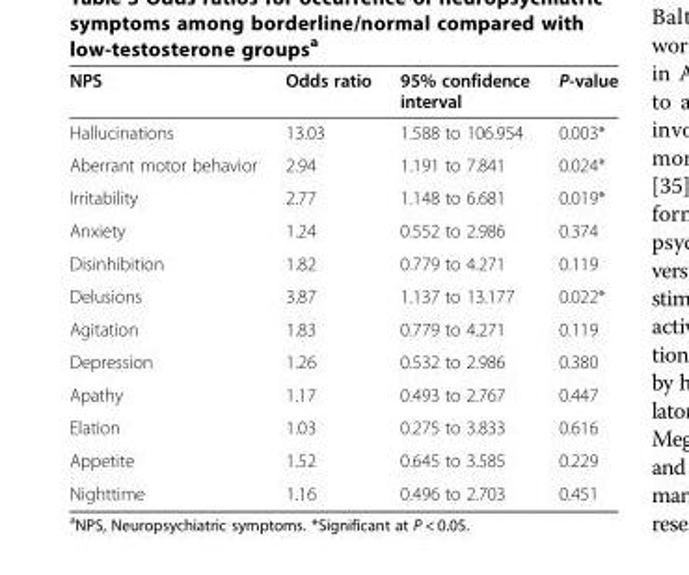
<table><thead><tr><td>NPS</td><td>Odds ratio</td><td>95% confidence interval</td><td>P-value</td></tr></thead><tbody><tr><td>Hallucinations</td><td>13.03</td><td>1.588 to 106.954</td><td>0.003*</td></tr><tr><td>Aberrant motor behavior</td><td>2.94</td><td>1.191 to 7.841</td><td>0.024*</td></tr><tr><td>Irritability</td><td>2.77</td><td>1.148 to 6.681</td><td>0.019*</td></tr><tr><td>Anxiety</td><td>1.24</td><td>0.552 to 2.986</td><td>0.374</td></tr><tr><td>Disinhibition</td><td>1.82</td><td>0.779 to 4.271</td><td>0.119</td></tr><tr><td>Delusions</td><td>3.87</td><td>1.137 to 13.177</td><td>0.022*</td></tr><tr><td>Agitation</td><td>1.83</td><td>0.779 to 4.271</td><td>0.119</td></tr><tr><td>Depression</td><td>1.26</td><td>0.532 to 2.986</td><td>0.380</td></tr><tr><td>Apathy</td><td>1.17</td><td>0.493 to 2.767</td><td>0.447</td></tr><tr><td>Elation</td><td>1.03</td><td>0.275 to 3.833</td><td>0.616</td></tr><tr><td>Appetite</td><td>1.52</td><td>0.645 to 3.585</td><td>0.229</td></tr><tr><td>Nighttime</td><td>1.16</td><td>0.496 to 2.703</td><td>0.451</td></tr></tbody></table>